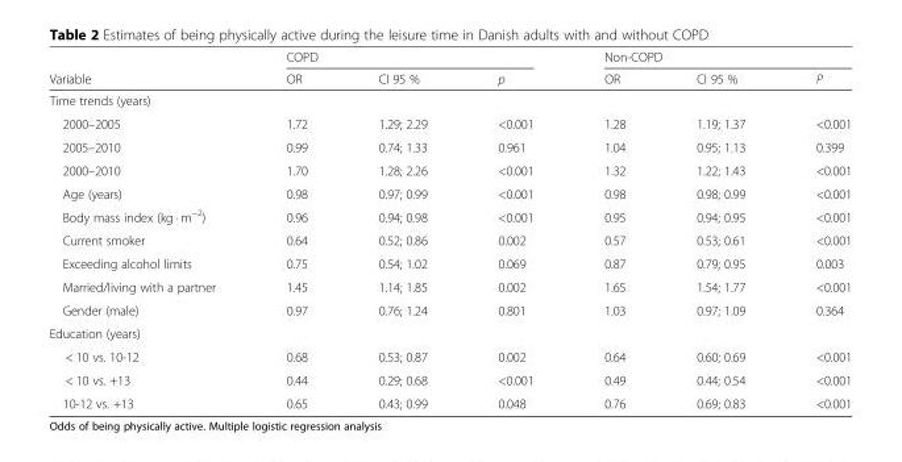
<table><thead><tr><td rowspan="2">Variable</td><td colspan="3">COPD</td><td colspan="3">Non-COPD</td></tr><tr><td>OR</td><td>CI 95 %</td><td>p</td><td>OR</td><td>CI 95 %</td><td>P</td></tr></thead><tbody><tr><td colspan="7">Time trends (years)</td></tr><tr><td>2000–2005</td><td>1.72</td><td>1.29; 2.29</td><td>&lt;0.001</td><td>1.28</td><td>1.19; 1.37</td><td>&lt;0.001</td></tr><tr><td>2005–2010</td><td>0.99</td><td>0.74; 1.33</td><td>0.961</td><td>1.04</td><td>0.95; 1.13</td><td>0.399</td></tr><tr><td>2000–2010</td><td>1.70</td><td>1.28; 2.26</td><td>&lt;0.001</td><td>1.32</td><td>1.22; 1.43</td><td>&lt;0.001</td></tr><tr><td>Age (years)</td><td>0.98</td><td>0.97; 0.99</td><td>&lt;0.001</td><td>0.98</td><td>0.98; 0.99</td><td>&lt;0.001</td></tr><tr><td>Body mass index (kg · m<sup>−2</sup>)</td><td>0.96</td><td>0.94; 0.98</td><td>&lt;0.001</td><td>0.95</td><td>0.94; 0.95</td><td>&lt;0.001</td></tr><tr><td>Current smoker</td><td>0.64</td><td>0.52; 0.86</td><td>0.002</td><td>0.57</td><td>0.53; 0.61</td><td>&lt;0.001</td></tr><tr><td>Exceeding alcohol limits</td><td>0.75</td><td>0.54; 1.02</td><td>0.069</td><td>0.87</td><td>0.79; 0.95</td><td>0.003</td></tr><tr><td>Married/living with a partner</td><td>1.45</td><td>1.14; 1.85</td><td>0.002</td><td>1.65</td><td>1.54; 1.77</td><td>&lt;0.001</td></tr><tr><td>Gender (male)</td><td>0.97</td><td>0.76; 1.24</td><td>0.801</td><td>1.03</td><td>0.97; 1.09</td><td>0.364</td></tr><tr><td colspan="7">Education (years)</td></tr><tr><td>&lt; 10 vs. 10-12</td><td>0.68</td><td>0.53; 0.87</td><td>0.002</td><td>0.64</td><td>0.60; 0.69</td><td>&lt;0.001</td></tr><tr><td>&lt; 10 vs. +13</td><td>0.44</td><td>0.29; 0.68</td><td>&lt;0.001</td><td>0.49</td><td>0.44; 0.54</td><td>&lt;0.001</td></tr><tr><td>10-12 vs. +13</td><td>0.65</td><td>0.43; 0.99</td><td>0.048</td><td>0.76</td><td>0.69; 0.83</td><td>&lt;0.001</td></tr></tbody></table>